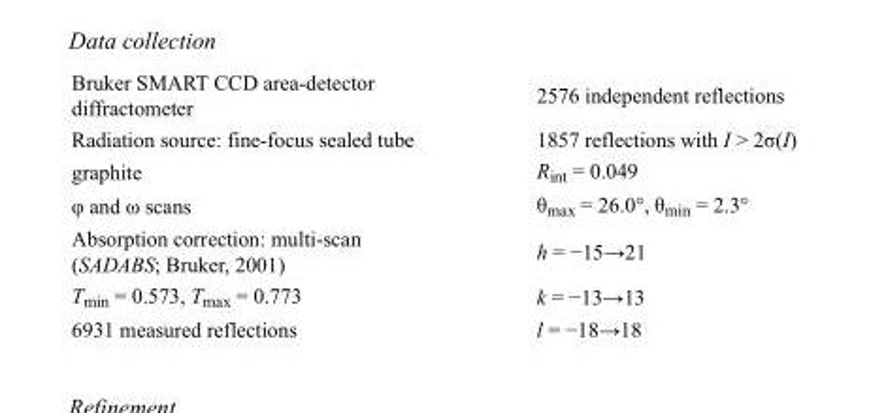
<table><tbody><tr><td>Bruker SMART CCD area-detector diffractometer</td><td>2576 independent reflections</td></tr><tr><td>Radiation source: fine-focus sealed tube</td><td>1857 reflections with I &gt; 2σ(I)</td></tr><tr><td>graphite</td><td>R<sub>int</sub> = 0.049</td></tr><tr><td>φ and ω scans</td><td>θ<sub>max</sub> = 26.0°, θ<sub>min</sub> = 2.3°</td></tr><tr><td>Absorption correction: multi-scan (SADABS; Bruker, 2001)</td><td>h = −15→21</td></tr><tr><td>T<sub>min</sub> = 0.573, T<sub>max</sub> = 0.773</td><td>k = −13→13</td></tr><tr><td>6931 measured reflections</td><td>l = −18→18</td></tr></tbody></table>